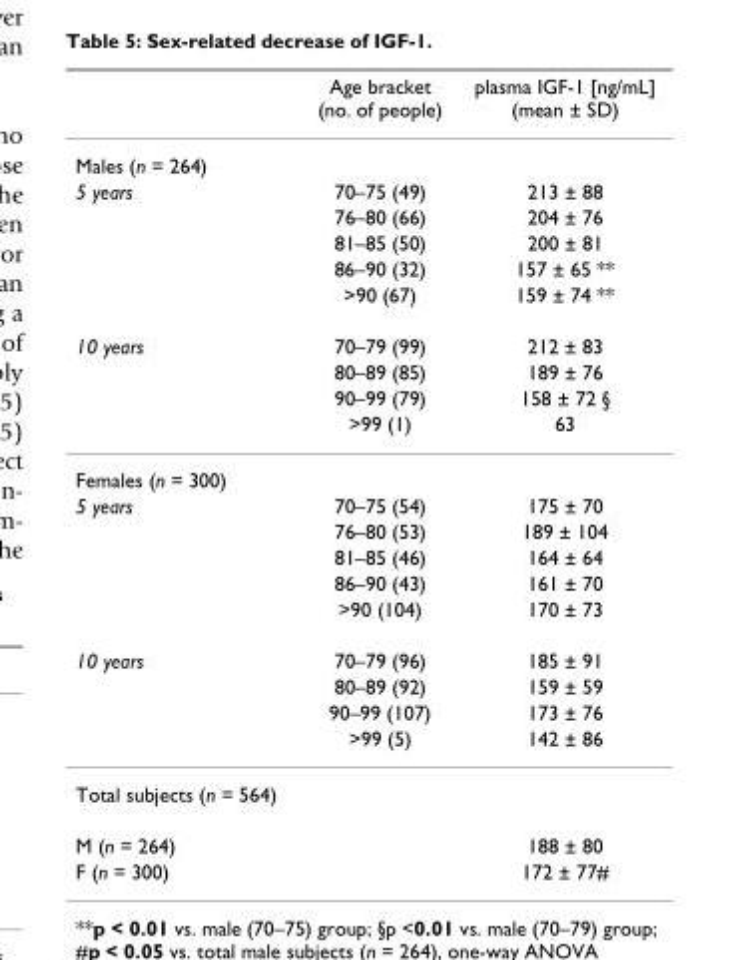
<table><thead><tr><td></td><td>Age bracket (no. of people)</td><td>plasma IGF-1 [ng/mL] (mean ± SD)</td></tr></thead><tbody><tr><td colspan="3">Males (n = 264)</td></tr><tr><td rowspan="5">5 years</td><td>70–75 (49)</td><td>213 ± 88</td></tr><tr><td>76–80 (66)</td><td>204 ± 76</td></tr><tr><td>81–85 (50)</td><td>200 ± 81</td></tr><tr><td>86–90 (32)</td><td>157 ± 65 **</td></tr><tr><td>&gt;90 (67)</td><td>159 ± 74 **</td></tr><tr><td rowspan="4">10 years</td><td>70–79 (99)</td><td>212 ± 83</td></tr><tr><td>80–89 (85)</td><td>189 ± 76</td></tr><tr><td>90–99 (79)</td><td>158 ± 72 §</td></tr><tr><td>&gt;99 (1)</td><td>63</td></tr><tr><td colspan="3">Females (n = 300)</td></tr><tr><td rowspan="5">5 years</td><td>70–75 (54)</td><td>175 ± 70</td></tr><tr><td>76–80 (53)</td><td>189 ± 104</td></tr><tr><td>81–85 (46)</td><td>164 ± 64</td></tr><tr><td>86–90 (43)</td><td>161 ± 70</td></tr><tr><td>&gt;90 (104)</td><td>170 ± 73</td></tr><tr><td rowspan="4">10 years</td><td>70–79 (96)</td><td>185 ± 91</td></tr><tr><td>80–89 (92)</td><td>159 ± 59</td></tr><tr><td>90–99 (107)</td><td>173 ± 76</td></tr><tr><td>&gt;99 (5)</td><td>142 ± 86</td></tr><tr><td colspan="3">Total subjects (n = 564)</td></tr><tr><td>M (n = 264)</td><td></td><td>188 ± 80</td></tr><tr><td>F (n = 300)</td><td></td><td>172 ± 77#</td></tr></tbody></table>